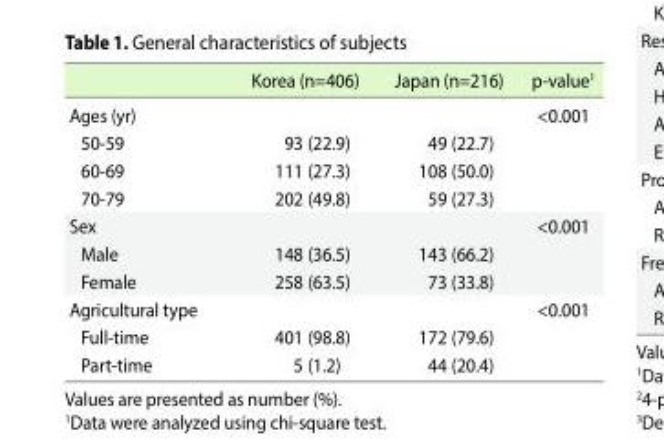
<table><thead><tr><td></td><td>Korea (n=406)</td><td>Japan (n=216)</td><td>p-value<sup>1</sup></td></tr></thead><tbody><tr><td>Ages (yr)</td><td></td><td></td><td>&lt;0.001</td></tr><tr><td>50-59</td><td>93 (22.9)</td><td>49 (22.7)</td><td></td></tr><tr><td>60-69</td><td>111 (27.3)</td><td>108 (50.0)</td><td></td></tr><tr><td>70-79</td><td>202 (49.8)</td><td>59 (27.3)</td><td></td></tr><tr><td>Sex</td><td></td><td></td><td>&lt;0.001</td></tr><tr><td>Male</td><td>148 (36.5)</td><td>143 (66.2)</td><td></td></tr><tr><td>Female</td><td>258 (63.5)</td><td>73 (33.8)</td><td></td></tr><tr><td>Agricultural type</td><td></td><td></td><td>&lt;0.001</td></tr><tr><td>Full-time</td><td>401 (98.8)</td><td>172 (79.6)</td><td></td></tr><tr><td>Part-time</td><td>5 (1.2)</td><td>44 (20.4)</td><td></td></tr></tbody></table>